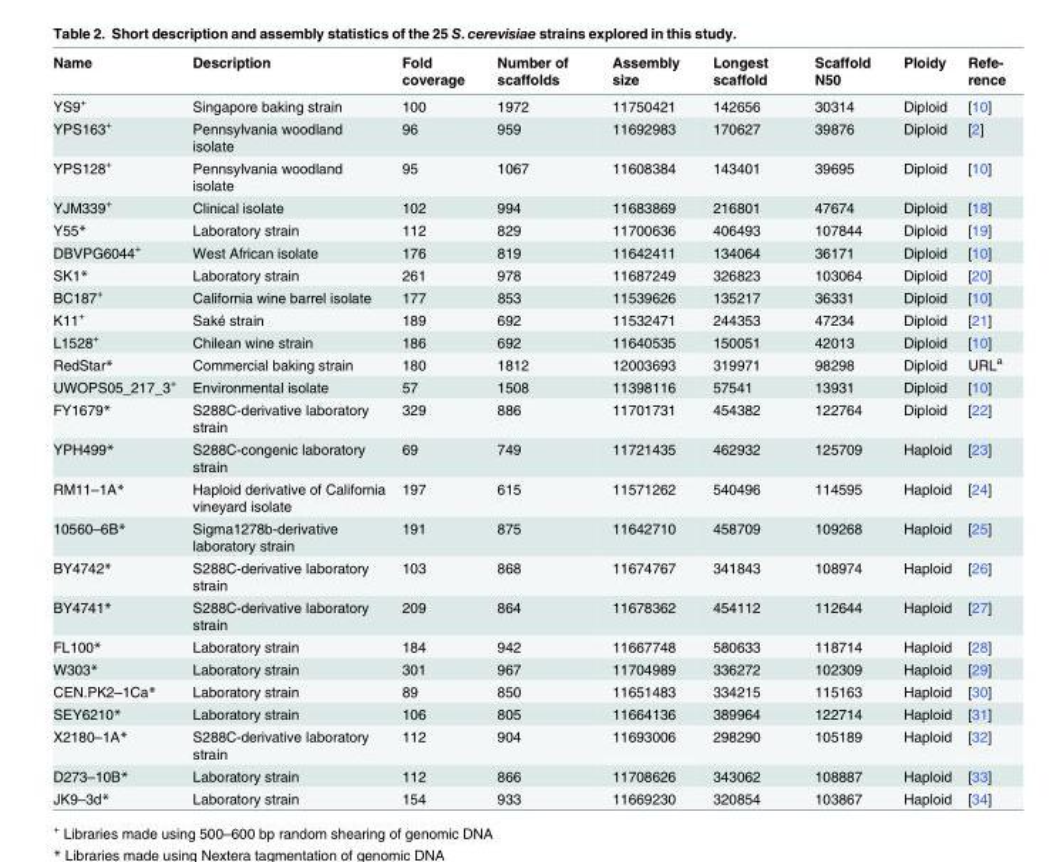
<table><thead><tr><td>Name</td><td>Description</td><td>Fold coverage</td><td>Number of scaffolds</td><td>Assembly size</td><td>Longest scaffold</td><td>Scaffold N50</td><td>Ploidy</td><td>Refe- rence</td></tr></thead><tbody><tr><td>YS9<sup>+</sup></td><td>Singapore baking strain</td><td>100</td><td>1972</td><td>11750421</td><td>142656</td><td>30314</td><td>Diploid</td><td>[10]</td></tr><tr><td>YPS163<sup>+</sup></td><td>Pennsylvania woodland isolate</td><td>96</td><td>959</td><td>11692983</td><td>170627</td><td>39876</td><td>Diploid</td><td>[2]</td></tr><tr><td>YPS128<sup>+</sup></td><td>Pennsylvania woodland isolate</td><td>95</td><td>1067</td><td>11608384</td><td>143401</td><td>39695</td><td>Diploid</td><td>[10]</td></tr><tr><td>YJM339<sup>+</sup></td><td>Clinical isolate</td><td>102</td><td>994</td><td>11683869</td><td>216801</td><td>47674</td><td>Diploid</td><td>[18]</td></tr><tr><td>Y55*</td><td>Laboratory strain</td><td>112</td><td>829</td><td>11700636</td><td>406493</td><td>107844</td><td>Diploid</td><td>[19]</td></tr><tr><td>DBVPG6044<sup>+</sup></td><td>West African isolate</td><td>176</td><td>819</td><td>11642411</td><td>134064</td><td>36171</td><td>Diploid</td><td>[10]</td></tr><tr><td>SK1*</td><td>Laboratory strain</td><td>261</td><td>978</td><td>11687249</td><td>326823</td><td>103064</td><td>Diploid</td><td>[20]</td></tr><tr><td>BC187<sup>+</sup></td><td>California wine barrel isolate</td><td>177</td><td>853</td><td>11539626</td><td>135217</td><td>36331</td><td>Diploid</td><td>[10]</td></tr><tr><td>K11<sup>+</sup></td><td>Saké strain</td><td>189</td><td>692</td><td>11532471</td><td>244353</td><td>47234</td><td>Diploid</td><td>[21]</td></tr><tr><td>L1528<sup>+</sup></td><td>Chilean wine strain</td><td>186</td><td>692</td><td>11640535</td><td>150051</td><td>42013</td><td>Diploid</td><td>[10]</td></tr><tr><td>RedStar*</td><td>Commercial baking strain</td><td>180</td><td>1812</td><td>12003693</td><td>319971</td><td>98298</td><td>Diploid</td><td>URL<sup>a</sup></td></tr><tr><td>UWOPS05_217_3<sup>+</sup></td><td>Environmental isolate</td><td>57</td><td>1508</td><td>11398116</td><td>57541</td><td>13931</td><td>Diploid</td><td>[10]</td></tr><tr><td>FY1679*</td><td>S288C-derivative laboratory strain</td><td>329</td><td>886</td><td>11701731</td><td>454382</td><td>122764</td><td>Diploid</td><td>[22]</td></tr><tr><td>YPH499*</td><td>S288C-congenic laboratory strain</td><td>69</td><td>749</td><td>11721435</td><td>462932</td><td>125709</td><td>Haploid</td><td>[23]</td></tr><tr><td>RM11–1A*</td><td>Haploid derivative of California vineyard isolate</td><td>197</td><td>615</td><td>11571262</td><td>540496</td><td>114595</td><td>Haploid</td><td>[24]</td></tr><tr><td>10560–6B*</td><td>Sigma1278b-derivative laboratory strain</td><td>191</td><td>875</td><td>11642710</td><td>458709</td><td>109268</td><td>Haploid</td><td>[25]</td></tr><tr><td>BY4742*</td><td>S288C-derivative laboratory strain</td><td>103</td><td>868</td><td>11674767</td><td>341843</td><td>108974</td><td>Haploid</td><td>[26]</td></tr><tr><td>BY4741*</td><td>S288C-derivative laboratory strain</td><td>209</td><td>864</td><td>11678362</td><td>454112</td><td>112644</td><td>Haploid</td><td>[27]</td></tr><tr><td>FL100*</td><td>Laboratory strain</td><td>184</td><td>942</td><td>11667748</td><td>580633</td><td>118714</td><td>Haploid</td><td>[28]</td></tr><tr><td>W303*</td><td>Laboratory strain</td><td>301</td><td>967</td><td>11704989</td><td>336272</td><td>102309</td><td>Haploid</td><td>[29]</td></tr><tr><td>CEN.PK2–1Ca*</td><td>Laboratory strain</td><td>89</td><td>850</td><td>11651483</td><td>334215</td><td>115163</td><td>Haploid</td><td>[30]</td></tr><tr><td>SEY6210*</td><td>Laboratory strain</td><td>106</td><td>805</td><td>11664136</td><td>389964</td><td>122714</td><td>Haploid</td><td>[31]</td></tr><tr><td>X2180–1A*</td><td>S288C-derivative laboratory strain</td><td>112</td><td>904</td><td>11693006</td><td>298290</td><td>105189</td><td>Haploid</td><td>[32]</td></tr><tr><td>D273–10B*</td><td>Laboratory strain</td><td>112</td><td>866</td><td>11708626</td><td>343062</td><td>108887</td><td>Haploid</td><td>[33]</td></tr><tr><td>JK9–3d*</td><td>Laboratory strain</td><td>154</td><td>933</td><td>11669230</td><td>320854</td><td>103867</td><td>Haploid</td><td>[34]</td></tr></tbody></table>